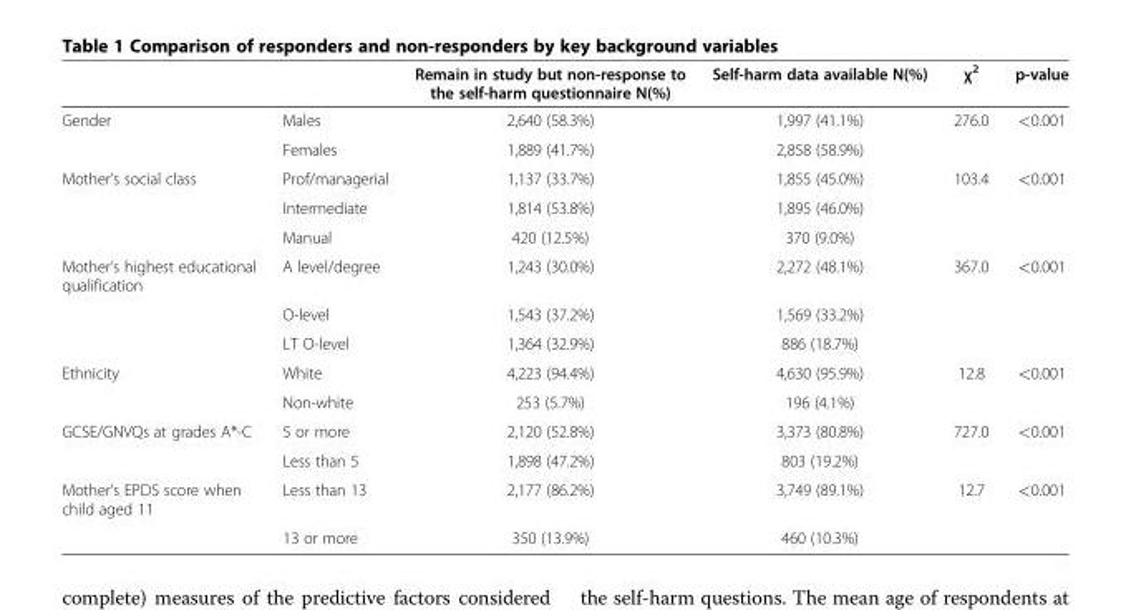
<table><thead><tr><td></td><td></td><td>Remain in study but non-response to the self-harm questionnaire N(%)</td><td>Self-harm data available N(%)</td><td>χ<sup>2</sup></td><td>p-value</td></tr></thead><tbody><tr><td rowspan="2">Gender</td><td>Males</td><td>2,640 (58.3%)</td><td>1,997 (41.1%)</td><td>276.0</td><td>&lt;0.001</td></tr><tr><td>Females</td><td>1,889 (41.7%)</td><td>2,858 (58.9%)</td><td></td><td></td></tr><tr><td rowspan="3">Mother’s social class</td><td>Prof/managerial</td><td>1,137 (33.7%)</td><td>1,855 (45.0%)</td><td>103.4</td><td>&lt;0.001</td></tr><tr><td>Intermediate</td><td>1,814 (53.8%)</td><td>1,895 (46.0%)</td><td></td><td></td></tr><tr><td>Manual</td><td>420 (12.5%)</td><td>370 (9.0%)</td><td></td><td></td></tr><tr><td rowspan="3">Mother’s highest educational qualification</td><td>A level/degree</td><td>1,243 (30.0%)</td><td>2,272 (48.1%)</td><td>367.0</td><td>&lt;0.001</td></tr><tr><td>O-level</td><td>1,543 (37.2%)</td><td>1,569 (33.2%)</td><td></td><td></td></tr><tr><td>LT O-level</td><td>1,364 (32.9%)</td><td>886 (18.7%)</td><td></td><td></td></tr><tr><td rowspan="2">Ethnicity</td><td>White</td><td>4,223 (94.4%)</td><td>4,630 (95.9%)</td><td>12.8</td><td>&lt;0.001</td></tr><tr><td>Non-white</td><td>253 (5.7%)</td><td>196 (4.1%)</td><td></td><td></td></tr><tr><td rowspan="2">GCSE/GNVQs at grades A*-C</td><td>5 or more</td><td>2,120 (52.8%)</td><td>3,373 (80.8%)</td><td>727.0</td><td>&lt;0.001</td></tr><tr><td>Less than 5</td><td>1,898 (47.2%)</td><td>803 (19.2%)</td><td></td><td></td></tr><tr><td rowspan="2">Mother’s EPDS score when child aged 11</td><td>Less than 13</td><td>2,177 (86.2%)</td><td>3,749 (89.1%)</td><td>12.7</td><td>&lt;0.001</td></tr><tr><td>13 or more</td><td>350 (13.9%)</td><td>460 (10.3%)</td><td></td><td></td></tr></tbody></table>